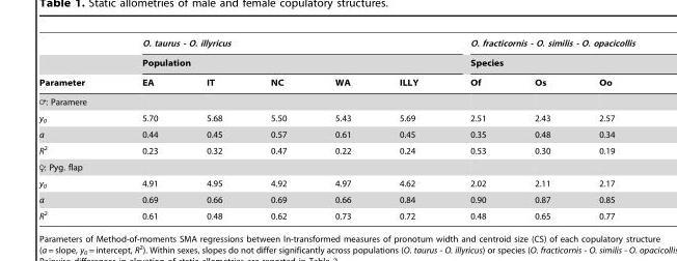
<table><thead><tr><td rowspan="3">Parameter</td><td rowspan="2" colspan="5">O. taurus - O. illyricus Population</td><td rowspan="2" colspan="3">O. fracticornis - O. similis - O. opacicollis Species</td></tr><tr></tr><tr><td>EA</td><td>IT</td><td>NC</td><td>WA</td><td>ILLY</td><td>Of</td><td>Os</td><td>Oo</td></tr></thead><tbody><tr><td colspan="9">=: Paramere</td></tr><tr><td>y<sub>0</sub></td><td>5.70</td><td>5.68</td><td>5.50</td><td>5.43</td><td>5.69</td><td>2.51</td><td>2.43</td><td>2.57</td></tr><tr><td>a</td><td>0.44</td><td>0.45</td><td>0.57</td><td>0.61</td><td>0.45</td><td>0.35</td><td>0.48</td><td>0.34</td></tr><tr><td>R<sup>2</sup></td><td>0.23</td><td>0.32</td><td>0.47</td><td>0.22</td><td>0.24</td><td>0.53</td><td>0.30</td><td>0.19</td></tr><tr><td colspan="9">♀: Pyg. flap</td></tr><tr><td>y<sub>0</sub></td><td>4.91</td><td>4.95</td><td>4.92</td><td>4.97</td><td>4.62</td><td>2.02</td><td>2.11</td><td>2.17</td></tr><tr><td>a</td><td>0.69</td><td>0.66</td><td>0.69</td><td>0.66</td><td>0.84</td><td>0.90</td><td>0.87</td><td>0.85</td></tr><tr><td>R<sup>2</sup></td><td>0.61</td><td>0.48</td><td>0.62</td><td>0.73</td><td>0.72</td><td>0.48</td><td>0.65</td><td>0.77</td></tr></tbody></table>